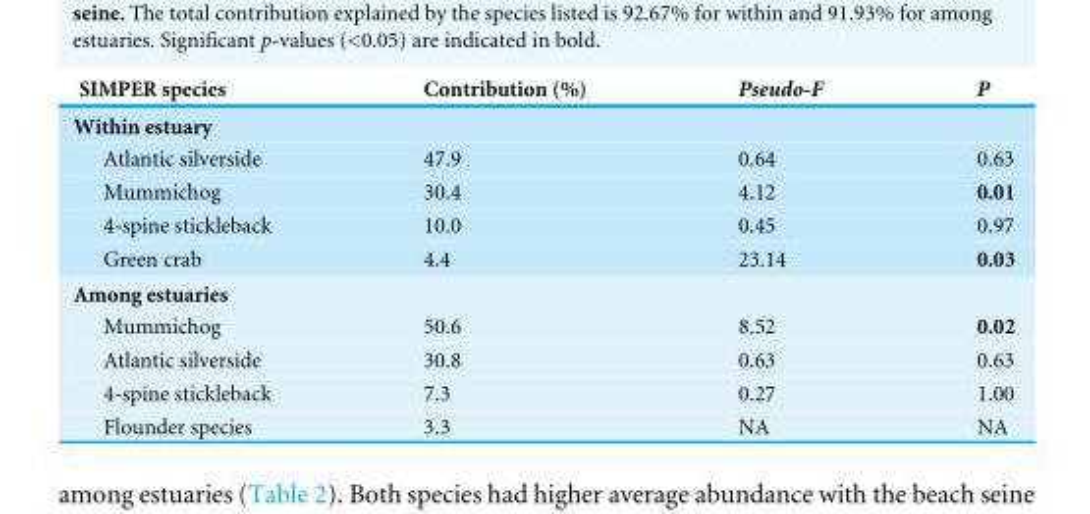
<table><thead><tr><td>SIMPER species</td><td>Contribution (%)</td><td>Pseudo-F</td><td>P</td></tr></thead><tbody><tr><td colspan="4">Within estuary</td></tr><tr><td>Atlantic silverside</td><td>47.9</td><td>0.64</td><td>0.63</td></tr><tr><td>Mummichog</td><td>30.4</td><td>4.12</td><td>0.01</td></tr><tr><td>4-spine stickleback</td><td>10.0</td><td>0.45</td><td>0.97</td></tr><tr><td>Green crab</td><td>4.4</td><td>23.14</td><td>0.03</td></tr><tr><td colspan="4">Among estuaries</td></tr><tr><td>Mummichog</td><td>50.6</td><td>8.52</td><td>0.02</td></tr><tr><td>Atlantic silverside</td><td>30.8</td><td>0.63</td><td>0.63</td></tr><tr><td>4-spine stickleback</td><td>7.3</td><td>0.27</td><td>1.00</td></tr><tr><td>Flounder species</td><td>3.3</td><td>NA</td><td>NA</td></tr></tbody></table>